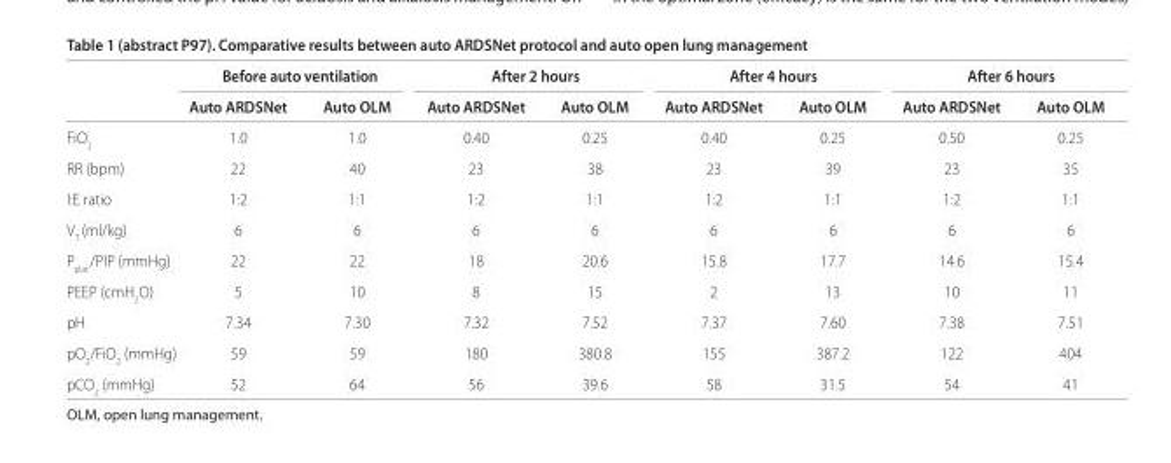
<table><thead><tr><td rowspan="2"></td><td colspan="2">Before auto ventilation</td><td colspan="2">After 2 hours</td><td colspan="2">After 4 hours</td><td colspan="2">After 6 hours</td></tr><tr><td>Auto ARDSNet</td><td>Auto OLM</td><td>Auto ARDSNet</td><td>Auto OLM</td><td>Auto ARDSNet</td><td>Auto OLM</td><td>Auto ARDSNet</td><td>Auto OLM</td></tr></thead><tbody><tr><td>FiO<sub>2</sub></td><td>1.0</td><td>1.0</td><td>0.40</td><td>0.25</td><td>0.40</td><td>0.25</td><td>0.50</td><td>0.25</td></tr><tr><td>RR (bpm)</td><td>22</td><td>40</td><td>23</td><td>38</td><td>23</td><td>39</td><td>23</td><td>35</td></tr><tr><td>I:E ratio</td><td>1:2</td><td>1:1</td><td>1:2</td><td>1:1</td><td>1:2</td><td>1:1</td><td>1:2</td><td>1:1</td></tr><tr><td>VT (ml/kg)</td><td>6</td><td>6</td><td>6</td><td>6</td><td>6</td><td>6</td><td>6</td><td>6</td></tr><tr><td>P<sub>plat</sub> /PIP (mmHg)</td><td>22</td><td>22</td><td>18</td><td>20.6</td><td>15.8</td><td>17.7</td><td>14.6</td><td>15.4</td></tr><tr><td>PEEP (cmH<sub>2</sub>O)</td><td>5</td><td>10</td><td>8</td><td>15</td><td>2</td><td>13</td><td>10</td><td>11</td></tr><tr><td>pH</td><td>7.34</td><td>7.30</td><td>7.32</td><td>7.52</td><td>7.37</td><td>7.60</td><td>7.38</td><td>7.51</td></tr><tr><td>pO<sub>2</sub>/FiO<sub>2</sub> (mmHg)</td><td>59</td><td>59</td><td>180</td><td>380.8</td><td>155</td><td>387.2</td><td>122</td><td>404</td></tr><tr><td>pCO<sub>2</sub> (mmHg)</td><td>52</td><td>64</td><td>56</td><td>39.6</td><td>58</td><td>31.5</td><td>54</td><td>41</td></tr></tbody></table>